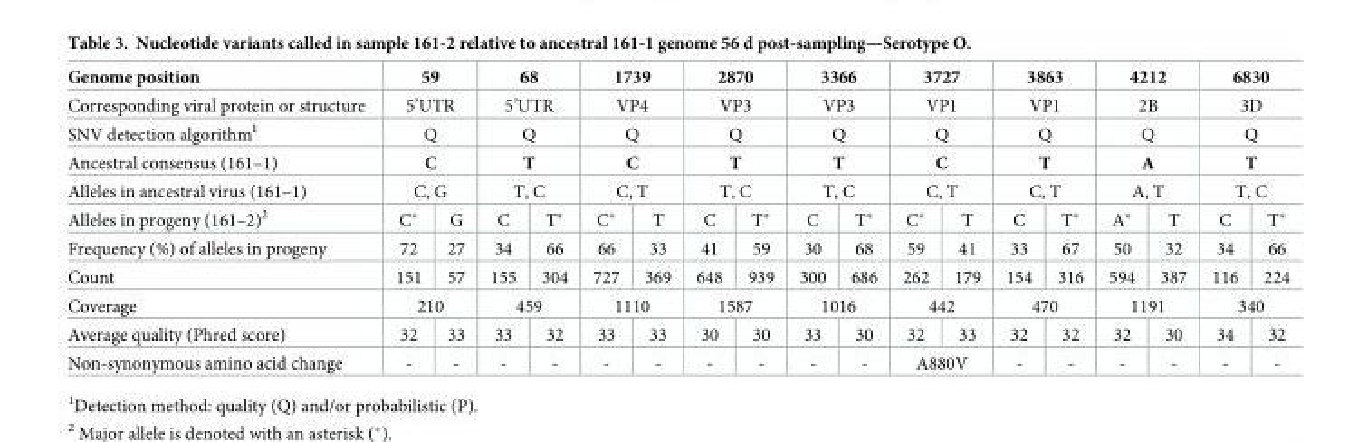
<table><tbody><tr><td>Genome position</td><td colspan="2">59</td><td colspan="2">68</td><td colspan="2">1739</td><td colspan="2">2870</td><td colspan="2">3366</td><td colspan="2">3727</td><td colspan="2">3863</td><td colspan="2">4212</td><td colspan="2">6830</td></tr><tr><td>Corresponding viral protein or structure</td><td colspan="2">5’UTR</td><td colspan="2">5’UTR</td><td colspan="2">VP4</td><td colspan="2">VP3</td><td colspan="2">VP3</td><td colspan="2">VP1</td><td colspan="2">VP1</td><td colspan="2">2B</td><td colspan="2">3D</td></tr><tr><td>SNV detection algorithm<sup>1</sup></td><td colspan="2">Q</td><td colspan="2">Q</td><td colspan="2">Q</td><td colspan="2">Q</td><td colspan="2">Q</td><td colspan="2">Q</td><td colspan="2">Q</td><td colspan="2">Q</td><td colspan="2">Q</td></tr><tr><td>Ancestral consensus (161–1)</td><td colspan="2">C</td><td colspan="2">T</td><td colspan="2">C</td><td colspan="2">T</td><td colspan="2">T</td><td colspan="2">C</td><td colspan="2">T</td><td colspan="2">A</td><td colspan="2">T</td></tr><tr><td>Alleles in ancestral virus (161–1)</td><td colspan="2">C, G</td><td colspan="2">T, C</td><td colspan="2">C, T</td><td colspan="2">T, C</td><td colspan="2">T, C</td><td colspan="2">C, T</td><td colspan="2">C, T</td><td colspan="2">A, T</td><td colspan="2">T, C</td></tr><tr><td>Alleles in progeny (161–2)<sup>2</sup></td><td>C*</td><td>G</td><td>C</td><td>T*</td><td>C*</td><td>T</td><td>C</td><td>T*</td><td>C</td><td>T*</td><td>C*</td><td>T</td><td>C</td><td>T*</td><td>A*</td><td>T</td><td>C</td><td>T*</td></tr><tr><td>Frequency (%) of alleles in progeny</td><td>72</td><td>27</td><td>34</td><td>66</td><td>66</td><td>33</td><td>41</td><td>59</td><td>30</td><td>68</td><td>59</td><td>41</td><td>33</td><td>67</td><td>50</td><td>32</td><td>34</td><td>66</td></tr><tr><td>Count</td><td>151</td><td>57</td><td>155</td><td>304</td><td>727</td><td>369</td><td>648</td><td>939</td><td>300</td><td>686</td><td>262</td><td>179</td><td>154</td><td>316</td><td>594</td><td>387</td><td>116</td><td>224</td></tr><tr><td>Coverage</td><td colspan="2">210</td><td colspan="2">459</td><td colspan="2">1110</td><td colspan="2">1587</td><td colspan="2">1016</td><td colspan="2">442</td><td colspan="2">470</td><td colspan="2">1191</td><td colspan="2">340</td></tr><tr><td>Average quality (Phred score)</td><td>32</td><td>33</td><td>33</td><td>32</td><td>33</td><td>33</td><td>30</td><td>30</td><td>33</td><td>30</td><td>32</td><td>33</td><td>32</td><td>32</td><td>32</td><td>30</td><td>34</td><td>32</td></tr><tr><td>Non-synonymous amino acid change</td><td>-</td><td>-</td><td>-</td><td>-</td><td>-</td><td>-</td><td>-</td><td>-</td><td>-</td><td>-</td><td colspan="2">A880V</td><td>-</td><td>-</td><td>-</td><td>-</td><td>-</td><td>-</td></tr></tbody></table>